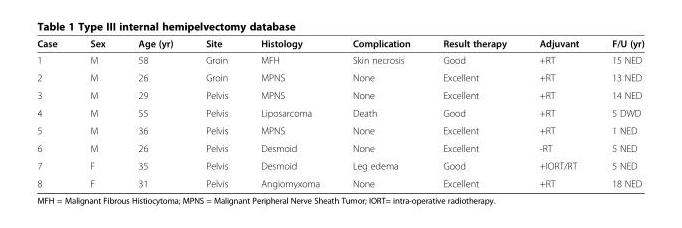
<table><thead><tr><td>Case</td><td>Sex</td><td>Age (yr)</td><td>Site</td><td>Histology</td><td>Complication</td><td>Result therapy</td><td>Adjuvant</td><td>F/U (yr)</td></tr></thead><tbody><tr><td>1</td><td>M</td><td>58</td><td>Groin</td><td>MFH</td><td>Skin necrosis</td><td>Good</td><td>+RT</td><td>15 NED</td></tr><tr><td>2</td><td>M</td><td>26</td><td>Groin</td><td>MPNS</td><td>None</td><td>Excellent</td><td>+RT</td><td>13 NED</td></tr><tr><td>3</td><td>M</td><td>29</td><td>Pelvis</td><td>MPNS</td><td>None</td><td>Excellent</td><td>+RT</td><td>14 NED</td></tr><tr><td>4</td><td>M</td><td>55</td><td>Pelvis</td><td>Liposarcoma</td><td>Death</td><td>Good</td><td>+RT</td><td>5 DWD</td></tr><tr><td>5</td><td>M</td><td>36</td><td>Pelvis</td><td>MPNS</td><td>None</td><td>Excellent</td><td>+RT</td><td>1 NED</td></tr><tr><td>6</td><td>M</td><td>26</td><td>Pelvis</td><td>Desmoid</td><td>None</td><td>Excellent</td><td>-RT</td><td>5 NED</td></tr><tr><td>7</td><td>F</td><td>35</td><td>Pelvis</td><td>Desmoid</td><td>Leg edema</td><td>Good</td><td>+IORT/RT</td><td>5 NED</td></tr><tr><td>8</td><td>F</td><td>31</td><td>Pelvis</td><td>Angiomyxoma</td><td>None</td><td>Excellent</td><td>+RT</td><td>18 NED</td></tr></tbody></table>